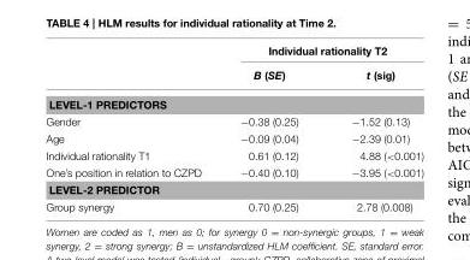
<table><thead><tr><td rowspan="2"></td><td colspan="2">Individual rationality T2</td></tr><tr><td>B (SE)</td><td>t (sig)</td></tr></thead><tbody><tr><td colspan="3">LEVEL-1 PREDICTORS</td></tr><tr><td>Gender</td><td>−0.38 (0.25)</td><td>−1.52 (0.13)</td></tr><tr><td>Age</td><td>−0.09 (0.04)</td><td>−2.39 (0.01)</td></tr><tr><td>Individual rationality T1</td><td>0.61 (0.12)</td><td>4.88 (&lt;0.001)</td></tr><tr><td>One’s position in relation to CZPD</td><td>−0.40 (0.10)</td><td>−3.95 (&lt;0.001)</td></tr><tr><td colspan="3">LEVEL-2 PREDICTOR</td></tr><tr><td>Group synergy</td><td>0.70 (0.25)</td><td>2.78 (0.008)</td></tr></tbody></table>